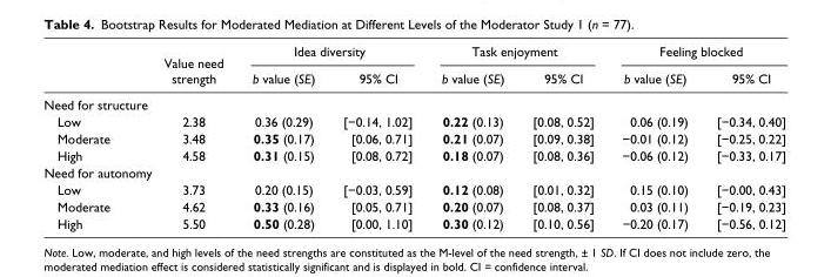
<table><thead><tr><td rowspan="2"></td><td rowspan="2">Value need strength</td><td colspan="2">Idea diversity</td><td colspan="2">Task enjoyment</td><td colspan="2">Feeling blocked</td></tr><tr><td>b value (SE)</td><td>95% CI</td><td>b value (SE)</td><td>95% CI</td><td>b value (SE)</td><td>95% CI</td></tr></thead><tbody><tr><td colspan="8">Need for structure</td></tr><tr><td>Low</td><td>2.38</td><td>0.36 (0.29)</td><td>[−0.14, 1.02]</td><td>0.22 (0.13)</td><td>[0.08, 0.52]</td><td>0.06 (0.19)</td><td>[−0.34, 0.40]</td></tr><tr><td>Moderate</td><td>3.48</td><td>0.35 (0.17)</td><td>[0.06, 0.71]</td><td>0.21 (0.07)</td><td>[0.09, 0.38]</td><td>−0.01 (0.12)</td><td>[−0.25, 0.22]</td></tr><tr><td>High</td><td>4.58</td><td>0.31 (0.15)</td><td>[0.08, 0.72]</td><td>0.18 (0.07)</td><td>[0.08, 0.36]</td><td>−0.06 (0.12)</td><td>[−0.33, 0.17]</td></tr><tr><td colspan="8">Need for autonomy</td></tr><tr><td>Low</td><td>3.73</td><td>0.20 (0.15)</td><td>[−0.03, 0.59]</td><td>0.12 (0.08)</td><td>[0.01, 0.32]</td><td>0.15 (0.10)</td><td>[−0.00, 0.43]</td></tr><tr><td>Moderate</td><td>4.62</td><td>0.33 (0.16)</td><td>[0.05, 0.71]</td><td>0.20 (0.07)</td><td>[0.08, 0.37]</td><td>0.03 (0.11)</td><td>[−0.19, 0.23]</td></tr><tr><td>High</td><td>5.50</td><td>0.50 (0.28)</td><td>[0.00, 1.10]</td><td>0.30 (0.12)</td><td>[0.10, 0.56]</td><td>−0.20 (0.17)</td><td>[−0.56, 0.12]</td></tr></tbody></table>